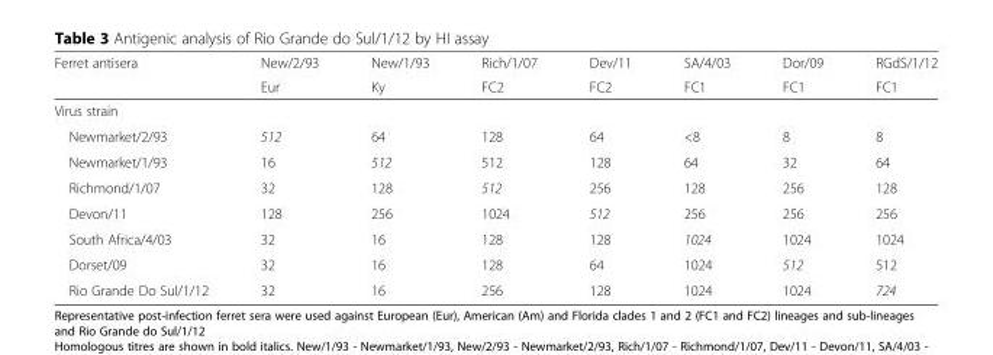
<table><thead><tr><td rowspan="2">Ferret antisera</td><td rowspan="2">New/2/93 Eur</td><td rowspan="2">New/1/93 Ky</td><td rowspan="2">Rich/1/07 FC2</td><td rowspan="2">Dev/11 FC2</td><td rowspan="2">SA/4/03 FC1</td><td rowspan="2">Dor/09 FC1</td><td rowspan="2">RGdS/1/12 FC1</td></tr><tr></tr></thead><tbody><tr><td colspan="8">Virus strain</td></tr><tr><td>Newmarket/2/93</td><td>512</td><td>64</td><td>128</td><td>64</td><td>&lt;8</td><td>8</td><td>8</td></tr><tr><td>Newmarket/1/93</td><td>16</td><td>512</td><td>512</td><td>128</td><td>64</td><td>32</td><td>64</td></tr><tr><td>Richmond/1/07</td><td>32</td><td>128</td><td>512</td><td>256</td><td>128</td><td>256</td><td>128</td></tr><tr><td>Devon/11</td><td>128</td><td>256</td><td>1024</td><td>512</td><td>256</td><td>256</td><td>256</td></tr><tr><td>South Africa/4/03</td><td>32</td><td>16</td><td>128</td><td>128</td><td>1024</td><td>1024</td><td>1024</td></tr><tr><td>Dorset/09</td><td>32</td><td>16</td><td>128</td><td>64</td><td>1024</td><td>512</td><td>512</td></tr><tr><td>Rio Grande Do Sul/1/12</td><td>32</td><td>16</td><td>256</td><td>128</td><td>1024</td><td>1024</td><td>724</td></tr></tbody></table>